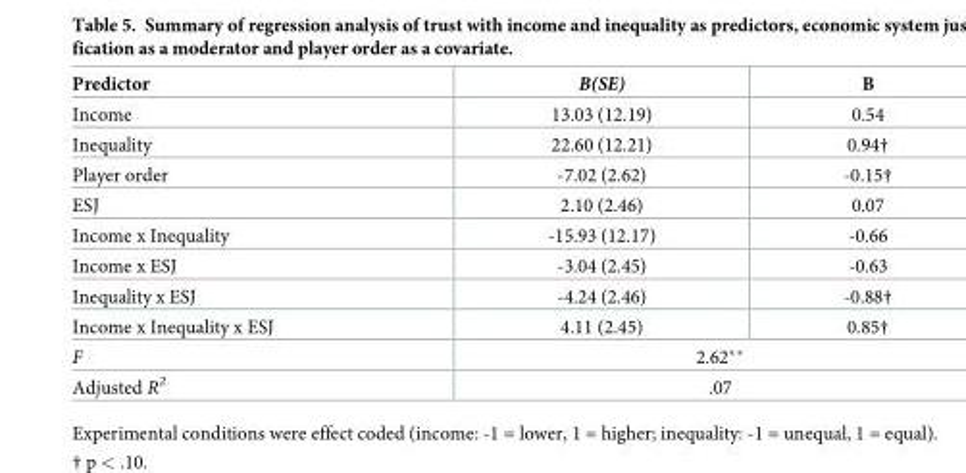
<table><thead><tr><td>Predictor</td><td>B(SE)</td><td>B</td></tr></thead><tbody><tr><td>Income</td><td>13.03 (12.19)</td><td>0.54</td></tr><tr><td>Inequality</td><td>22.60 (12.21)</td><td>0.94†</td></tr><tr><td>Player order</td><td>-7.02 (2.62)</td><td>-0.15†</td></tr><tr><td>ESJ</td><td>2.10 (2.46)</td><td>0.07</td></tr><tr><td>Income x Inequality</td><td>-15.93 (12.17)</td><td>-0.66</td></tr><tr><td>Income x ESJ</td><td>-3.04 (2.45)</td><td>-0.63</td></tr><tr><td>Inequality x ESJ</td><td>-4.24 (2.46)</td><td>-0.88†</td></tr><tr><td>Income x Inequality x ESJ</td><td>4.11 (2.45)</td><td>0.85†</td></tr><tr><td>F</td><td colspan="2">2.62**</td></tr><tr><td>Adjusted R<sup>2</sup></td><td colspan="2">.07</td></tr></tbody></table>